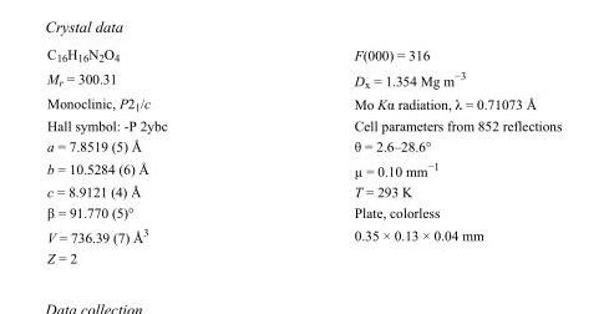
<table><tbody><tr><td>C<sub>16</sub>H<sub>16</sub>N<sub>2</sub>O<sub>4</sub></td><td>F(000) = 316</td></tr><tr><td>M<sub>r</sub> = 300.31</td><td>D<sub>x</sub> = 1.354 Mg m<sup>−3</sup></td></tr><tr><td>Monoclinic, P2<sub>1</sub>/c</td><td>Mo Kα radiation, λ = 0.71073 Å</td></tr><tr><td>Hall symbol: -P 2ybc</td><td>Cell parameters from 852 reflections</td></tr><tr><td>a = 7.8519 (5) Å</td><td>θ = 2.6–28.6°</td></tr><tr><td>b = 10.5284 (6) Å</td><td>µ = 0.10 mm<sup>−1</sup></td></tr><tr><td>c = 8.9121 (4) Å</td><td>T = 293 K</td></tr><tr><td>β = 91.770 (5)°</td><td>Plate, colorless</td></tr><tr><td>V = 736.39 (7) Å<sup>3</sup></td><td>0.35 × 0.13 × 0.04 mm</td></tr><tr><td>Z = 2</td><td></td></tr></tbody></table>